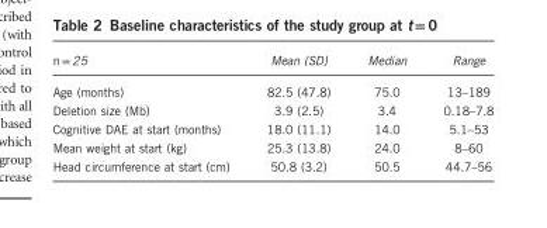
<table><thead><tr><td>n = 25</td><td>Mean (SD)</td><td>Median</td><td>Range</td></tr></thead><tbody><tr><td>Age (months)</td><td>82.5 (47.8)</td><td>75.0</td><td>13–189</td></tr><tr><td>Deletion size (Mb)</td><td>3.9 (2.5)</td><td>3.4</td><td>0.18–7.8</td></tr><tr><td>Cognitive DAE at start (months)</td><td>18.0 (11.1)</td><td>14.0</td><td>5.1–53</td></tr><tr><td>Mean weight at start (kg)</td><td>25.3 (13.8)</td><td>24.0</td><td>8–60</td></tr><tr><td>Head circumference at start (cm)</td><td>50.8 (3.2)</td><td>50.5</td><td>44.7–56</td></tr></tbody></table>